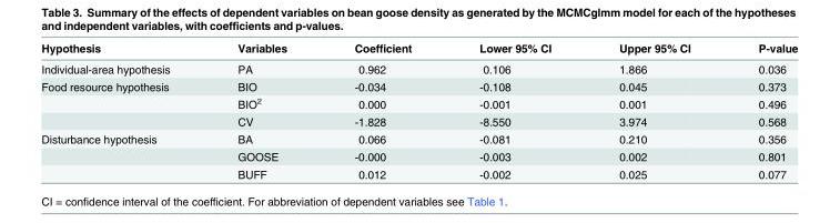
<table><thead><tr><td>Hypothesis</td><td>Variables</td><td>Coefficient</td><td>Lower 95% CI</td><td>Upper 95% CI</td><td>P-value</td></tr></thead><tbody><tr><td>Individual-area hypothesis</td><td>PA</td><td>0.962</td><td>0.106</td><td>1.866</td><td>0.036</td></tr><tr><td rowspan="3">Food resource hypothesis</td><td>BIO</td><td>-0.034</td><td>-0.108</td><td>0.045</td><td>0.373</td></tr><tr><td>BIO<sup>2</sup></td><td>0.000</td><td>-0.001</td><td>0.001</td><td>0.496</td></tr><tr><td>CV</td><td>-1.828</td><td>-8.550</td><td>3.974</td><td>0.568</td></tr><tr><td rowspan="3">Disturbance hypothesis</td><td>BA</td><td>0.066</td><td>-0.081</td><td>0.210</td><td>0.356</td></tr><tr><td>GOOSE</td><td>-0.000</td><td>-0.003</td><td>0.002</td><td>0.801</td></tr><tr><td>BUFF</td><td>0.012</td><td>-0.002</td><td>0.025</td><td>0.077</td></tr></tbody></table>